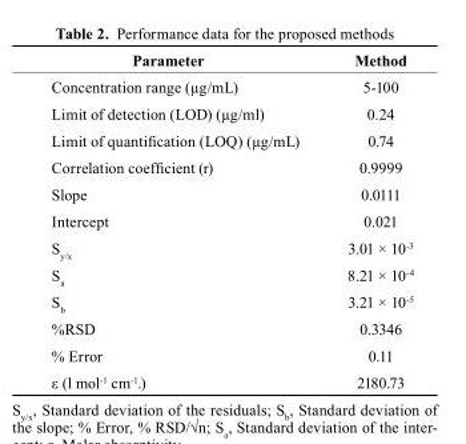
<table><thead><tr><td>Parameter</td><td>method</td></tr></thead><tbody><tr><td>Concentration range (µg/mL)</td><td>5-100</td></tr><tr><td>Limit of detection (LOD) (µg/ml)</td><td>0.24</td></tr><tr><td>Limit of quantification (LOQ) (µg/mL)</td><td>0.74</td></tr><tr><td>Correlation coefficient (r)</td><td>0.9999</td></tr><tr><td>Slope</td><td>0.0111</td></tr><tr><td>Intercept</td><td>0.021</td></tr><tr><td>S<sub>y/x</sub></td><td>3.01 × 10<sup>-3</sup></td></tr><tr><td>S<sub>a</sub></td><td>8.21 × 10<sup>-4</sup></td></tr><tr><td>S<sub>b</sub></td><td>3.21 × 10<sup>-5</sup></td></tr><tr><td>%RSD</td><td>0.3346</td></tr><tr><td>% Error</td><td>0.11</td></tr><tr><td>ε (l mol<sup>-1</sup> cm<sup>-1</sup>.)</td><td>2180.73</td></tr></tbody></table>